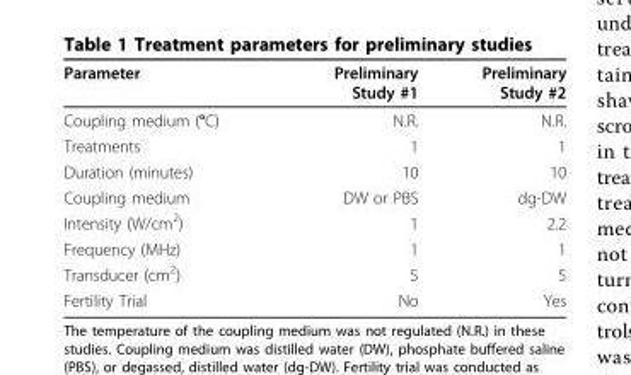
<table><thead><tr><td>Parameter</td><td>Preliminary Study #1</td><td>Preliminary Study #2</td></tr></thead><tbody><tr><td>Coupling medium (°C)</td><td>N.R.</td><td>N.R.</td></tr><tr><td>Treatments</td><td>1</td><td>1</td></tr><tr><td>Duration (minutes)</td><td>10</td><td>10</td></tr><tr><td>Coupling medium</td><td>DW or PBS</td><td>dg-DW</td></tr><tr><td>Intensity (W/cm<sup>2</sup>)</td><td>1</td><td>2.2</td></tr><tr><td>Frequency (MHz)</td><td>1</td><td>1</td></tr><tr><td>Transducer (cm<sup>2</sup>)</td><td>5</td><td>5</td></tr><tr><td>Fertility Trial</td><td>No</td><td>Yes</td></tr></tbody></table>